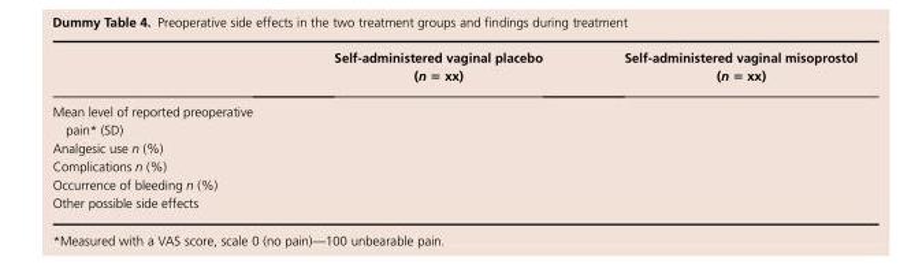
<table><thead><tr><td></td><td>Self-administered vaginal placebo (n = xx)</td><td>Self-administered vaginal misoprostol (n = xx)</td></tr></thead><tbody><tr><td colspan="3">Mean level of reported preoperative pain* (SD)</td></tr><tr><td colspan="3">Analgesic use n (%)</td></tr><tr><td colspan="3">Complications n (%)</td></tr><tr><td colspan="3">Occurrence of bleeding n (%)</td></tr><tr><td>Other possible side effects</td><td></td><td></td></tr></tbody></table>